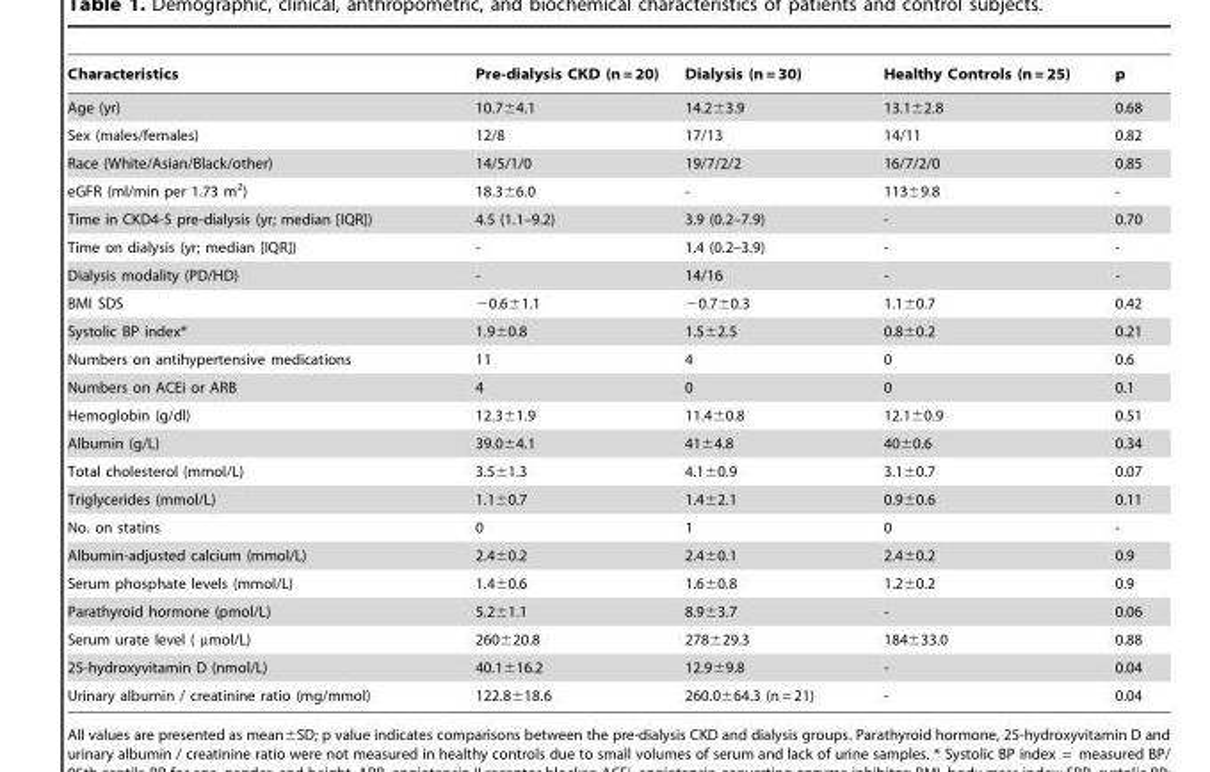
<table><thead><tr><td>Characteristics</td><td>Pre-dialysis CKD (n = 20)</td><td>Dialysis (n = 30)</td><td>Healthy Controls (n = 25)</td><td>p</td></tr></thead><tbody><tr><td>Age (yr)</td><td>10.7±4.1</td><td>14.2±3.9</td><td>13.1±2.8</td><td>0.68</td></tr><tr><td>Sex (males/females)</td><td>12/8</td><td>17/13</td><td>14/11</td><td>0.82</td></tr><tr><td>Race (White/Asian/Black/other)</td><td>14/5/1/0</td><td>19/7/2/2</td><td>16/7/2/0</td><td>0.85</td></tr><tr><td>eGFR (ml/min per 1.73 m<sup>2</sup>)</td><td>18.3±6.0</td><td>-</td><td>113±9.8</td><td>-</td></tr><tr><td>Time in CKD4-5 pre-dialysis (yr; median [IQR])</td><td>4.5 (1.1–9.2)</td><td>3.9 (0.2–7.9)</td><td>-</td><td>0.70</td></tr><tr><td>Time on dialysis (yr; median [IQR])</td><td>-</td><td>1.4 (0.2–3.9)</td><td>-</td><td>-</td></tr><tr><td>Dialysis modality (PD/HD)</td><td>-</td><td>14/16</td><td>-</td><td>-</td></tr><tr><td>BMI SDS</td><td>−0.6±1.1</td><td>−0.7±0.3</td><td>1.1±0.7</td><td>0.42</td></tr><tr><td>Systolic BP index*</td><td>1.9±0.8</td><td>1.5±2.5</td><td>0.8±0.2</td><td>0.21</td></tr><tr><td>Numbers on antihypertensive medications</td><td>11</td><td>4</td><td>0</td><td>0.6</td></tr><tr><td>Numbers on ACEi or ARB</td><td>4</td><td>0</td><td>0</td><td>0.1</td></tr><tr><td>Hemoglobin (g/dl)</td><td>12.3±1.9</td><td>11.4±0.8</td><td>12.1±0.9</td><td>0.51</td></tr><tr><td>Albumin (g/L)</td><td>39.0±4.1</td><td>41±4.8</td><td>40±0.6</td><td>0.34</td></tr><tr><td>Total cholesterol (mmol/L)</td><td>3.5±1.3</td><td>4.1±0.9</td><td>3.1±0.7</td><td>0.07</td></tr><tr><td>Triglycerides (mmol/L)</td><td>1.1±0.7</td><td>1.4±2.1</td><td>0.9±0.6</td><td>0.11</td></tr><tr><td>No. on statins</td><td>0</td><td>1</td><td>0</td><td>-</td></tr><tr><td>Albumin-adjusted calcium (mmol/L)</td><td>2.4±0.2</td><td>2.4±0.1</td><td>2.4±0.2</td><td>0.9</td></tr><tr><td>Serum phosphate levels (mmol/L)</td><td>1.4±0.6</td><td>1.6±0.8</td><td>1.2±0.2</td><td>0.9</td></tr><tr><td>Parathyroid hormone (pmol/L)</td><td>5.2±1.1</td><td>8.9±3.7</td><td>-</td><td>0.06</td></tr><tr><td>Serum urate level ( µmol/L)</td><td>260±20.8</td><td>278±29.3</td><td>184±33.0</td><td>0.88</td></tr><tr><td>25-hydroxyvitamin D (nmol/L)</td><td>40.1±16.2</td><td>12.9±9.8</td><td>-</td><td>0.04</td></tr><tr><td>Urinary albumin / creatinine ratio (mg/mmol)</td><td>122.8±18.6</td><td>260.0±64.3 (n = 21)</td><td>-</td><td>0.04</td></tr></tbody></table>